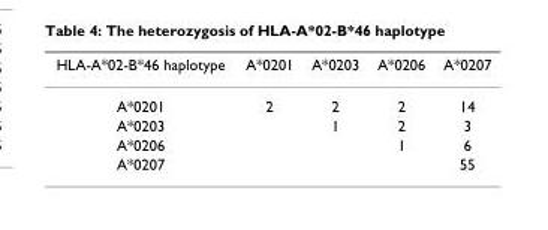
<table><thead><tr><td>HLA-A*02-B*46 haplotype</td><td>A*0201</td><td>A*0203</td><td>A*0206</td><td>A*0207</td></tr></thead><tbody><tr><td>A*0201</td><td>2</td><td>2</td><td>2</td><td>14</td></tr><tr><td>A*0203</td><td></td><td>1</td><td>2</td><td>3</td></tr><tr><td>A*0206</td><td></td><td></td><td>1</td><td>6</td></tr><tr><td>A*0207</td><td></td><td></td><td></td><td>55</td></tr></tbody></table>